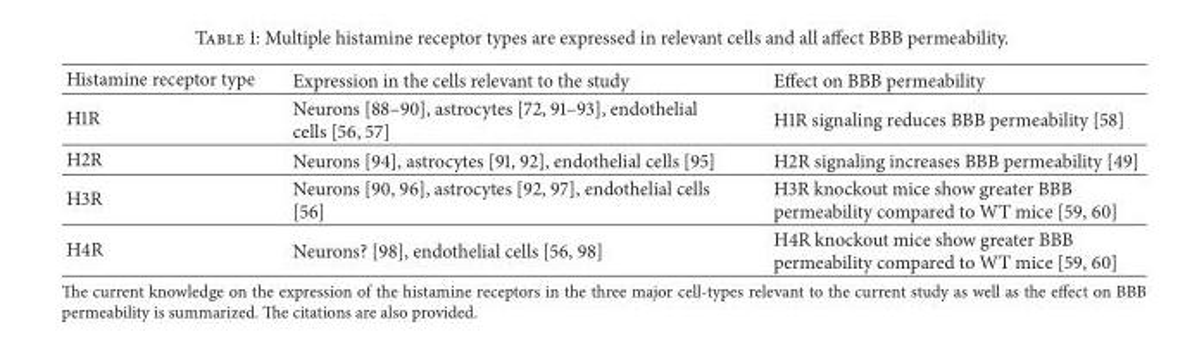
<table><thead><tr><td>Histamine receptor type</td><td>Expression in the cells relevant to the study</td><td>Effect on BBB permeability</td></tr></thead><tbody><tr><td>H1R</td><td>Neurons [88–90], astrocytes [72, 91–93], endothelial cells [56, 57]</td><td>H1R signaling reduces BBB permeability [58]</td></tr><tr><td>H2R</td><td>Neurons [94], astrocytes [91, 92], endothelial cells [95]</td><td>H2R signaling increases BBB permeability [49]</td></tr><tr><td>H3R</td><td>Neurons [90, 96], astrocytes [92, 97], endothelial cells [56]</td><td>H3R knockout mice show greater BBB permeability compared to WT mice [59, 60]</td></tr><tr><td>H4R</td><td>Neurons? [98], endothelial cells [56, 98]</td><td>H4R knockout mice show greater BBB permeability compared to WT mice [59, 60]</td></tr></tbody></table>